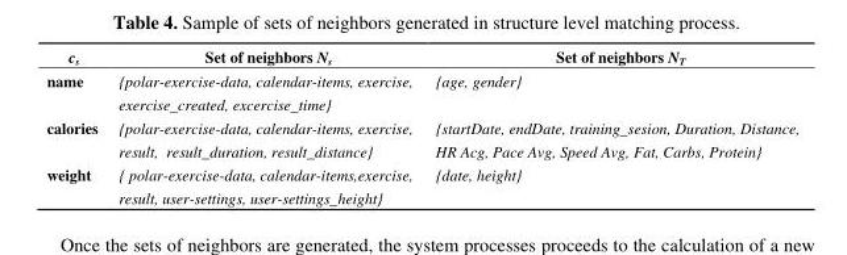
<table><thead><tr><td>c<sub>s</sub></td><td>Set of neighbors N<sub>s</sub></td><td>Set of neighbors N<sub>T</sub></td></tr></thead><tbody><tr><td>name</td><td>{polar-exercise-data, calendar-items, exercise, exercise_created, excercise_time}</td><td>{age, gender}</td></tr><tr><td>calories</td><td>{polar-exercise-data, calendar-items, exercise, result, result_duration, result_distance}</td><td>{startDate, endDate, training_sesion, Duration, Distance, HR Acg, Pace Avg, Speed Avg, Fat, Carbs, Protein}</td></tr><tr><td>weight</td><td>{ polar-exercise-data, calendar-items,exercise, result, user-settings, user-settings_height}</td><td>{date, height}</td></tr></tbody></table>